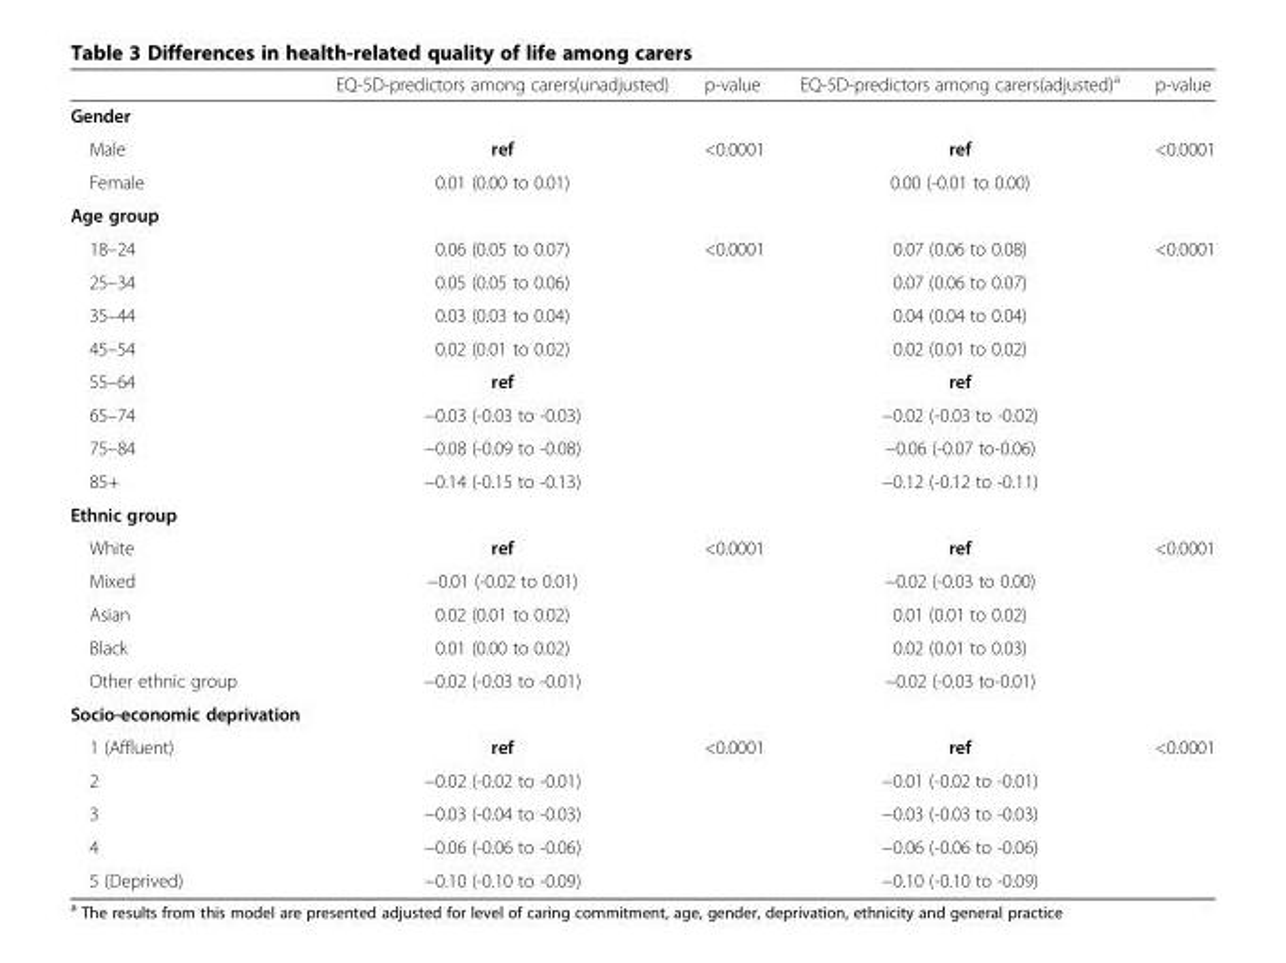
<table><thead><tr><td></td><td>EQ-5D-predictors among carers(unadjusted)</td><td>p-value</td><td>EQ-5D-predictors among carers(adjusted)<sup>a</sup></td><td>p-value</td></tr></thead><tbody><tr><td colspan="5">Gender</td></tr><tr><td>Male</td><td>ref</td><td rowspan="2">&lt;0.0001</td><td>ref</td><td rowspan="2">&lt;0.0001</td></tr><tr><td>Female</td><td>0.01 (0.00 to 0.01)</td><td>0.00 (-0.01 to 0.00)</td></tr><tr><td colspan="5">Age group</td></tr><tr><td>18–24</td><td>0.06 (0.05 to 0.07)</td><td rowspan="8">&lt;0.0001</td><td>0.07 (0.06 to 0.08)</td><td rowspan="8">&lt;0.0001</td></tr><tr><td>25–34</td><td>0.05 (0.05 to 0.06)</td><td>0.07 (0.06 to 0.07)</td></tr><tr><td>35–44</td><td>0.03 (0.03 to 0.04)</td><td>0.04 (0.04 to 0.04)</td></tr><tr><td>45–54</td><td>0.02 (0.01 to 0.02)</td><td>0.02 (0.01 to 0.02)</td></tr><tr><td>55–64</td><td>ref</td><td>ref</td></tr><tr><td>65–74</td><td>−0.03 (-0.03 to -0.03)</td><td>−0.02 (-0.03 to -0.02)</td></tr><tr><td>75–84</td><td>−0.08 (-0.09 to -0.08)</td><td>−0.06 (-0.07 to-0.06)</td></tr><tr><td>85+</td><td>−0.14 (-0.15 to -0.13)</td><td>−0.12 (-0.12 to -0.11)</td></tr><tr><td colspan="5">Ethnic group</td></tr><tr><td>White</td><td>ref</td><td rowspan="5">&lt;0.0001</td><td>ref</td><td rowspan="5">&lt;0.0001</td></tr><tr><td>Mixed</td><td>−0.01 (-0.02 to 0.01)</td><td>−0.02 (-0.03 to 0.00)</td></tr><tr><td>Asian</td><td>0.02 (0.01 to 0.02)</td><td>0.01 (0.01 to 0.02)</td></tr><tr><td>Black</td><td>0.01 (0.00 to 0.02)</td><td>0.02 (0.01 to 0.03)</td></tr><tr><td>Other ethnic group</td><td>−0.02 (-0.03 to -0.01)</td><td>−0.02 (-0.03 to-0.01)</td></tr><tr><td colspan="5">Socio-economic deprivation</td></tr><tr><td>1 (Affluent)</td><td>ref</td><td rowspan="5">&lt;0.0001</td><td>ref</td><td rowspan="5">&lt;0.0001</td></tr><tr><td>2</td><td>−0.02 (-0.02 to -0.01)</td><td>−0.01 (-0.02 to -0.01)</td></tr><tr><td>3</td><td>−0.03 (-0.04 to -0.03)</td><td>−0.03 (-0.03 to -0.03)</td></tr><tr><td>4</td><td>−0.06 (-0.06 to -0.06)</td><td>−0.06 (-0.06 to -0.06)</td></tr><tr><td>5 (Deprived)</td><td>−0.10 (-0.10 to -0.09)</td><td>−0.10 (-0.10 to -0.09)</td></tr></tbody></table>